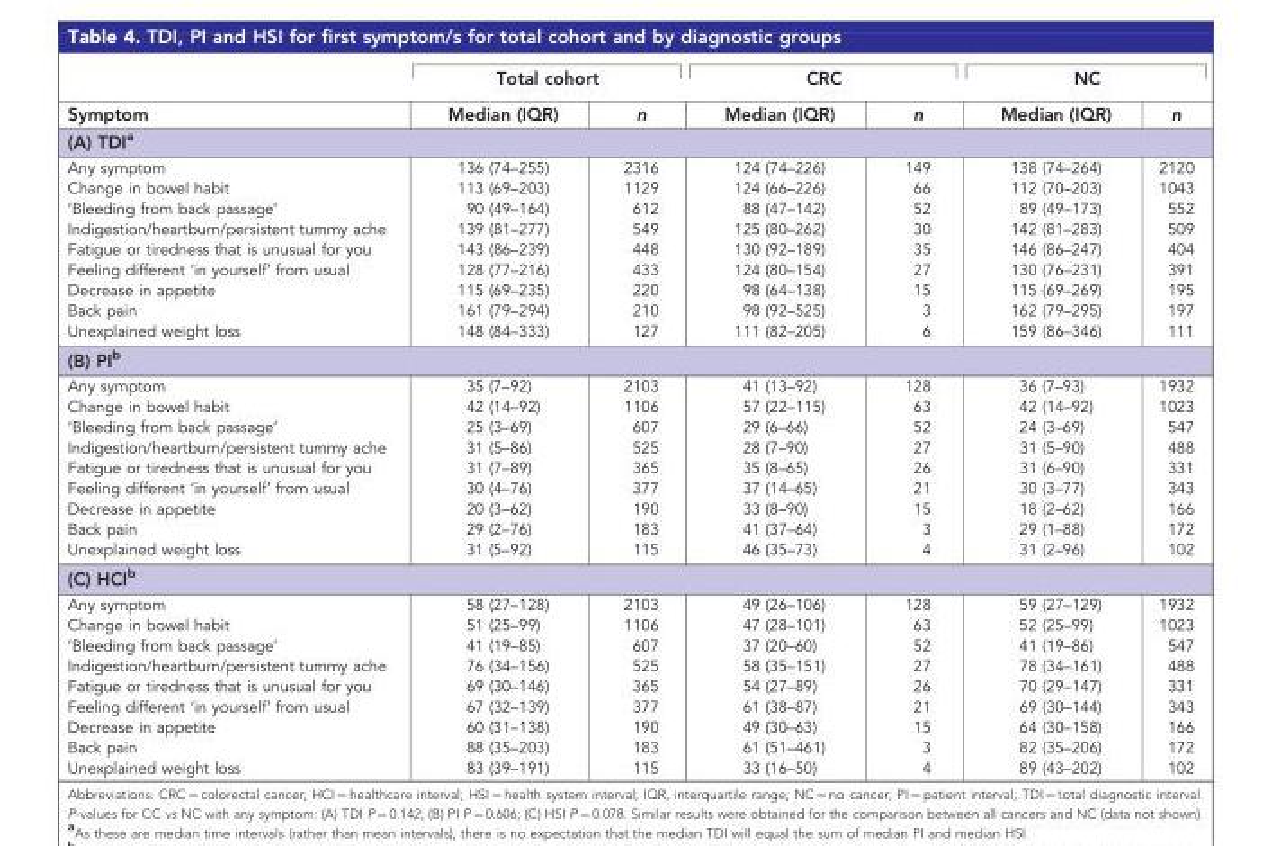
<table><thead><tr><td rowspan="2">Symptom</td><td colspan="2">Total cohort</td><td colspan="2">CRC</td><td colspan="2">NC</td></tr><tr><td>Median (IQR)</td><td>n</td><td>Median (IQR)</td><td>n</td><td>Median (IQR)</td><td>n</td></tr></thead><tbody><tr><td colspan="7">(A) TDI<sup>a</sup></td></tr><tr><td>Any symptom</td><td>136 (74–255)</td><td>2316</td><td>124 (74–226)</td><td>149</td><td>138 (74–264)</td><td>2120</td></tr><tr><td>Change in bowel habit</td><td>113 (69–203)</td><td>1129</td><td>124 (66–226)</td><td>66</td><td>112 (70–203)</td><td>1043</td></tr><tr><td>‘Bleeding from back passage’</td><td>90 (49–164)</td><td>612</td><td>88 (47–142)</td><td>52</td><td>89 (49–173)</td><td>552</td></tr><tr><td>Indigestion/heartburn/persistent tummy ache</td><td>139 (81–277)</td><td>549</td><td>125 (80–262)</td><td>30</td><td>142 (81–283)</td><td>509</td></tr><tr><td>Fatigue or tiredness that is unusual for you</td><td>143 (86–239)</td><td>448</td><td>130 (92–189)</td><td>35</td><td>146 (86–247)</td><td>404</td></tr><tr><td>Feeling different ‘in yourself’ from usual</td><td>128 (77–216)</td><td>433</td><td>124 (80–154)</td><td>27</td><td>130 (76–231)</td><td>391</td></tr><tr><td>Decrease in appetite</td><td>115 (69–235)</td><td>220</td><td>98 (64–138)</td><td>15</td><td>115 (69–269)</td><td>195</td></tr><tr><td>Back pain</td><td>161 (79–294)</td><td>210</td><td>98 (92–525)</td><td>3</td><td>162 (79–295)</td><td>197</td></tr><tr><td>Unexplained weight loss</td><td>148 (84–333)</td><td>127</td><td>111 (82–205)</td><td>6</td><td>159 (86–346)</td><td>111</td></tr><tr><td colspan="7">(B) PI<sup>b</sup></td></tr><tr><td>Any symptom</td><td>35 (7–92)</td><td>2103</td><td>41 (13–92)</td><td>128</td><td>36 (7–93)</td><td>1932</td></tr><tr><td>Change in bowel habit</td><td>42 (14–92)</td><td>1106</td><td>57 (22–115)</td><td>63</td><td>42 (14–92)</td><td>1023</td></tr><tr><td>‘Bleeding from back passage’</td><td>25 (3–69)</td><td>607</td><td>29 (6–66)</td><td>52</td><td>24 (3–69)</td><td>547</td></tr><tr><td>Indigestion/heartburn/persistent tummy ache</td><td>31 (5–86)</td><td>525</td><td>28 (7–90)</td><td>27</td><td>31 (5–90)</td><td>488</td></tr><tr><td>Fatigue or tiredness that is unusual for you</td><td>31 (7–89)</td><td>365</td><td>35 (8–65)</td><td>26</td><td>31 (6–90)</td><td>331</td></tr><tr><td>Feeling different ‘in yourself’ from usual</td><td>30 (4–76)</td><td>377</td><td>37 (14–65)</td><td>21</td><td>30 (3–77)</td><td>343</td></tr><tr><td>Decrease in appetite</td><td>20 (3–62)</td><td>190</td><td>33 (8–90)</td><td>15</td><td>18 (2–62)</td><td>166</td></tr><tr><td>Back pain</td><td>29 (2–76)</td><td>183</td><td>41 (37–64)</td><td>3</td><td>29 (1–88)</td><td>172</td></tr><tr><td>Unexplained weight loss</td><td>31 (5–92)</td><td>115</td><td>46 (35–73)</td><td>4</td><td>31 (2–96)</td><td>102</td></tr><tr><td colspan="7">(C) HCI<sup>b</sup></td></tr><tr><td>Any symptom</td><td>58 (27–128)</td><td>2103</td><td>49 (26–106)</td><td>128</td><td>59 (27–129)</td><td>1932</td></tr><tr><td>Change in bowel habit</td><td>51 (25–99)</td><td>1106</td><td>47 (28–101)</td><td>63</td><td>52 (25–99)</td><td>1023</td></tr><tr><td>‘Bleeding from back passage’</td><td>41 (19–85)</td><td>607</td><td>37 (20–60)</td><td>52</td><td>41 (19–86)</td><td>547</td></tr><tr><td>Indigestion/heartburn/persistent tummy ache</td><td>76 (34–156)</td><td>525</td><td>58 (35–151)</td><td>27</td><td>78 (34–161)</td><td>488</td></tr><tr><td>Fatigue or tiredness that is unusual for you</td><td>69 (30–146)</td><td>365</td><td>54 (27–89)</td><td>26</td><td>70 (29–147)</td><td>331</td></tr><tr><td>Feeling different ‘in yourself’ from usual</td><td>67 (32–139)</td><td>377</td><td>61 (38–87)</td><td>21</td><td>69 (30–144)</td><td>343</td></tr><tr><td>Decrease in appetite</td><td>60 (31–138)</td><td>190</td><td>49 (30–63)</td><td>15</td><td>64 (30–158)</td><td>166</td></tr><tr><td>Back pain</td><td>88 (35–203)</td><td>183</td><td>61 (51–461)</td><td>3</td><td>82 (35–206)</td><td>172</td></tr><tr><td>Unexplained weight loss</td><td>83 (39–191)</td><td>115</td><td>33 (16–50)</td><td>4</td><td>89 (43–202)</td><td>102</td></tr></tbody></table>